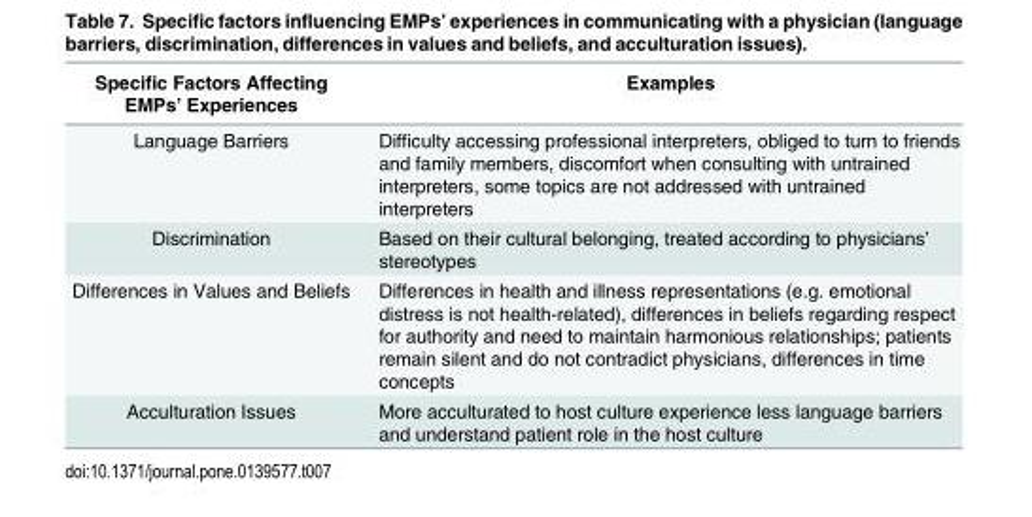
<table><thead><tr><td>Specific Factors Affecting EMPs’ Experiences</td><td>Examples</td></tr></thead><tbody><tr><td>Language Barriers</td><td>Difficulty accessing professional interpreters, obliged to turn to friends and family members, discomfort when consulting with untrained interpreters, some topics are not addressed with untrained interpreters</td></tr><tr><td>Discrimination</td><td>Based on their cultural belonging, treated according to physicians’ stereotypes</td></tr><tr><td>Differences in Values and Beliefs</td><td>Differences in health and illness representations (e.g. emotional distress is not health-related), differences in beliefs regarding respect for authority and need to maintain harmonious relationships; patients remain silent and do not contradict physicians, differences in time concepts</td></tr><tr><td>Acculturation Issues</td><td>More acculturated to host culture experience less language barriers and understand patient role in the host culture</td></tr></tbody></table>